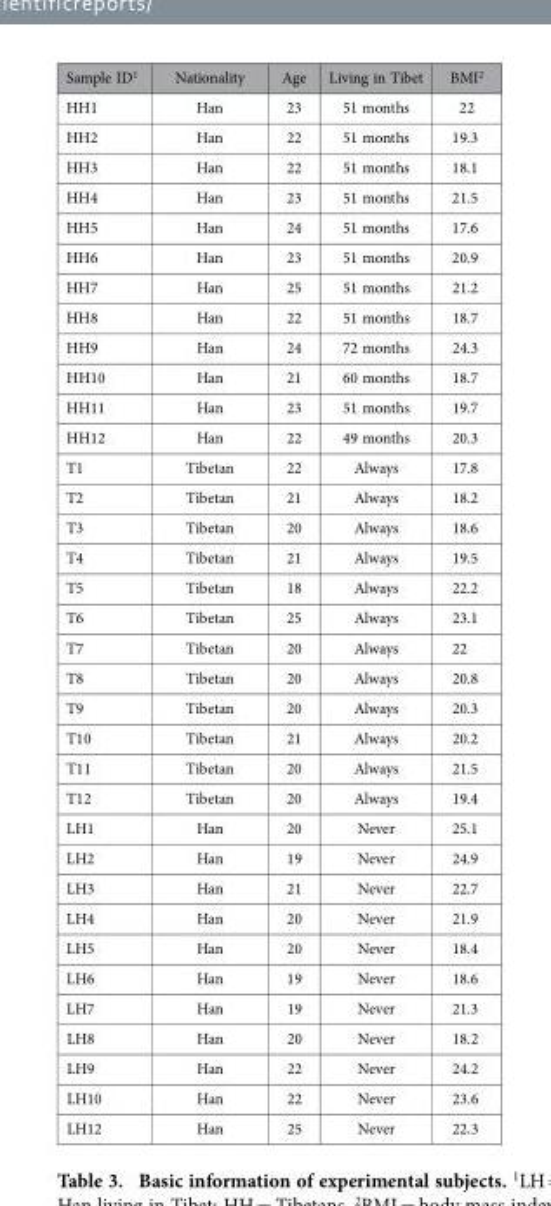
<table><thead><tr><td>Sample ID<sup>1</sup></td><td>Nationality</td><td>Age</td><td>Living in Tibet</td><td>BMI<sup>2</sup></td></tr></thead><tbody><tr><td>HH1</td><td>Han</td><td>23</td><td>51 months</td><td>22</td></tr><tr><td>HH2</td><td>Han</td><td>22</td><td>51 months</td><td>19.3</td></tr><tr><td>HH3</td><td>Han</td><td>22</td><td>51 months</td><td>18.1</td></tr><tr><td>HH4</td><td>Han</td><td>23</td><td>51 months</td><td>21.5</td></tr><tr><td>HH5</td><td>Han</td><td>24</td><td>51 months</td><td>17.6</td></tr><tr><td>HH6</td><td>Han</td><td>23</td><td>51 months</td><td>20.9</td></tr><tr><td>HH7</td><td>Han</td><td>25</td><td>51 months</td><td>21.2</td></tr><tr><td>HH8</td><td>Han</td><td>22</td><td>51 months</td><td>18.7</td></tr><tr><td>HH9</td><td>Han</td><td>24</td><td>72 months</td><td>24.3</td></tr><tr><td>HH10</td><td>Han</td><td>21</td><td>60 months</td><td>18.7</td></tr><tr><td>HH11</td><td>Han</td><td>23</td><td>51 months</td><td>19.7</td></tr><tr><td>HH12</td><td>Han</td><td>22</td><td>49 months</td><td>20.3</td></tr><tr><td>T1</td><td>Tibetan</td><td>22</td><td>Always</td><td>17.8</td></tr><tr><td>T2</td><td>Tibetan</td><td>21</td><td>Always</td><td>18.2</td></tr><tr><td>T3</td><td>Tibetan</td><td>20</td><td>Always</td><td>18.6</td></tr><tr><td>T4</td><td>Tibetan</td><td>21</td><td>Always</td><td>19.5</td></tr><tr><td>T5</td><td>Tibetan</td><td>18</td><td>Always</td><td>22.2</td></tr><tr><td>T6</td><td>Tibetan</td><td>25</td><td>Always</td><td>23.1</td></tr><tr><td>T7</td><td>Tibetan</td><td>20</td><td>Always</td><td>22</td></tr><tr><td>T8</td><td>Tibetan</td><td>20</td><td>Always</td><td>20.8</td></tr><tr><td>T9</td><td>Tibetan</td><td>20</td><td>Always</td><td>20.3</td></tr><tr><td>T10</td><td>Tibetan</td><td>21</td><td>Always</td><td>20.2</td></tr><tr><td>T11</td><td>Tibetan</td><td>20</td><td>Always</td><td>21.5</td></tr><tr><td>T12</td><td>Tibetan</td><td>20</td><td>Always</td><td>19.4</td></tr><tr><td>LH1</td><td>Han</td><td>20</td><td>Never</td><td>25.1</td></tr><tr><td>LH2</td><td>Han</td><td>19</td><td>Never</td><td>24.9</td></tr><tr><td>LH3</td><td>Han</td><td>21</td><td>Never</td><td>22.7</td></tr><tr><td>LH4</td><td>Han</td><td>20</td><td>Never</td><td>21.9</td></tr><tr><td>LH5</td><td>Han</td><td>20</td><td>Never</td><td>18.4</td></tr><tr><td>LH6</td><td>Han</td><td>19</td><td>Never</td><td>18.6</td></tr><tr><td>LH7</td><td>Han</td><td>19</td><td>Never</td><td>21.3</td></tr><tr><td>LH8</td><td>Han</td><td>20</td><td>Never</td><td>18.2</td></tr><tr><td>LH9</td><td>Han</td><td>22</td><td>Never</td><td>24.2</td></tr><tr><td>LH10</td><td>Han</td><td>22</td><td>Never</td><td>23.6</td></tr><tr><td>LH12</td><td>Han</td><td>25</td><td>Never</td><td>22.3</td></tr></tbody></table>